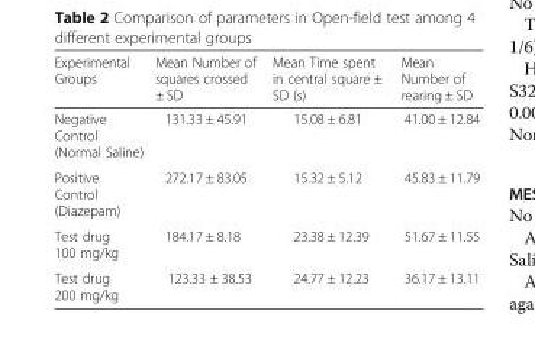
<table><thead><tr><td>Experimental Groups</td><td>Mean Number of squares crossed ± SD</td><td>Mean Time spent in central square ± SD (s)</td><td>Mean Number of rearing ± SD</td></tr></thead><tbody><tr><td>Negative Control (Normal Saline)</td><td>131.33 ± 45.91</td><td>15.08 ± 6.81</td><td>41.00 ± 12.84</td></tr><tr><td>Positive Control (Diazepam)</td><td>272.17 ± 83.05</td><td>15.32 ± 5.12</td><td>45.83 ± 11.79</td></tr><tr><td>Test drug 100 mg/kg</td><td>184.17 ± 8.18</td><td>23.38 ± 12.39</td><td>51.67 ± 11.55</td></tr><tr><td>Test drug 200 mg/kg</td><td>123.33 ± 38.53</td><td>24.77 ± 12.23</td><td>36.17 ± 13.11</td></tr></tbody></table>